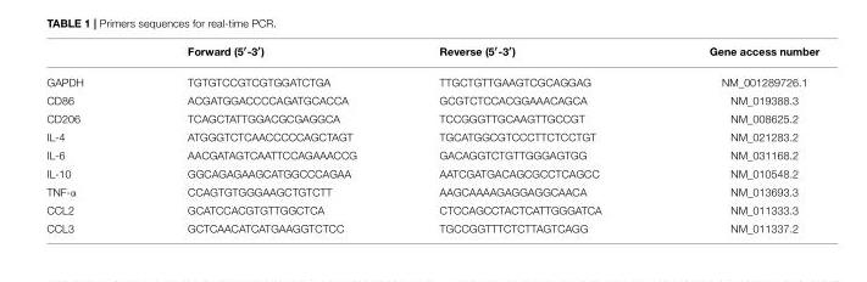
<table><thead><tr><td></td><td>Forward (5′-3′)</td><td>Reverse (5′-3′)</td><td>Gene access number</td></tr></thead><tbody><tr><td>GAPDH</td><td>TGTGTCCGTCGTGGATCTGA</td><td>TTGCTGTTGAAGTCGCAGGAG</td><td>NM_001289726.1</td></tr><tr><td>CD86</td><td>ACGATGGACCCCAGATGCACCA</td><td>GCGTCTCCACGGAAACAGCA</td><td>NM_019388.3</td></tr><tr><td>CD206</td><td>TCAGCTATTGGACGCGAGGCA</td><td>TCCGGGTTGCAAGTTGCCGT</td><td>NM_008625.2</td></tr><tr><td>IL-4</td><td>ATGGGTCTCAACCCCCAGCTAGT</td><td>TGCATGGCGTCCCTTCTCCTGT</td><td>NM_021283.2</td></tr><tr><td>IL-6</td><td>AACGATAGTCAATTCCAGAAACCG</td><td>GACAGGTCTGTTGGGAGTGG</td><td>NM_031168.2</td></tr><tr><td>IL-10</td><td>GGCAGAGAAGCATGGCCCAGAA</td><td>AATCGATGACAGCGCCTCAGCC</td><td>NM_010548.2</td></tr><tr><td>TNF-α</td><td>CCAGTGTGGGAAGCTGTCTT</td><td>AAGCAAAAGAGGAGGCAACA</td><td>NM_013693.3</td></tr><tr><td>CCL2</td><td>GCATCCACGTGTTGGCTCA</td><td>CTCCAGCCTACTCATTGGGATCA</td><td>NM_011333.3</td></tr><tr><td>CCL3</td><td>GCTCAACATCATGAAGGTCTCC</td><td>TGCCGGTTTCTCTTAGTCAGG</td><td>NM_011337.2</td></tr></tbody></table>